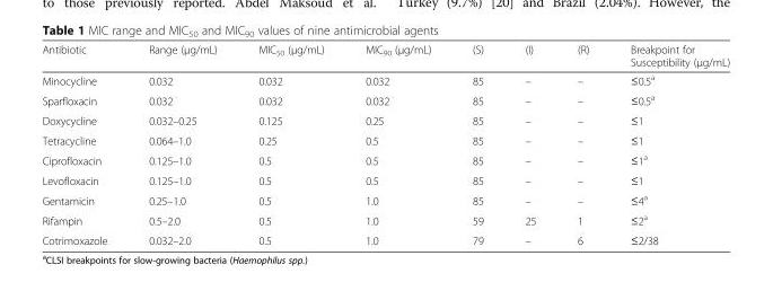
<table><thead><tr><td>Antibiotic</td><td>Range (μg/mL)</td><td>MIC<sub>50</sub> (μg/mL)</td><td>MIC<sub>90</sub> (μg/mL)</td><td>(S)</td><td>(I)</td><td>(R)</td><td>Breakpoint for Susceptibility (μg/mL)</td></tr></thead><tbody><tr><td>Minocycline</td><td>0.032</td><td>0.032</td><td>0.032</td><td>85</td><td>–</td><td>–</td><td>≤0.5<sup>a</sup></td></tr><tr><td>Sparfloxacin</td><td>0.032</td><td>0.032</td><td>0.032</td><td>85</td><td>–</td><td>–</td><td>≤0.5<sup>a</sup></td></tr><tr><td>Doxycycline</td><td>0.032–0.25</td><td>0.125</td><td>0.25</td><td>85</td><td>–</td><td>–</td><td>≤1</td></tr><tr><td>Tetracycline</td><td>0.064–1.0</td><td>0.25</td><td>0.5</td><td>85</td><td>–</td><td>–</td><td>≤1</td></tr><tr><td>Ciprofloxacin</td><td>0.125–1.0</td><td>0.5</td><td>0.5</td><td>85</td><td>–</td><td>–</td><td>≤1<sup>a</sup></td></tr><tr><td>Levofloxacin</td><td>0.125–1.0</td><td>0.5</td><td>0.5</td><td>85</td><td>–</td><td>–</td><td>≤1</td></tr><tr><td>Gentamicin</td><td>0.25–1.0</td><td>0.5</td><td>1.0</td><td>85</td><td>–</td><td>–</td><td>≤4<sup>a</sup></td></tr><tr><td>Rifampin</td><td>0.5–2.0</td><td>0.5</td><td>1.0</td><td>59</td><td>25</td><td>1</td><td>≤2<sup>a</sup></td></tr><tr><td>Cotrimoxazole</td><td>0.032–2.0</td><td>0.5</td><td>1.0</td><td>79</td><td>–</td><td>6</td><td>≤2/38</td></tr></tbody></table>